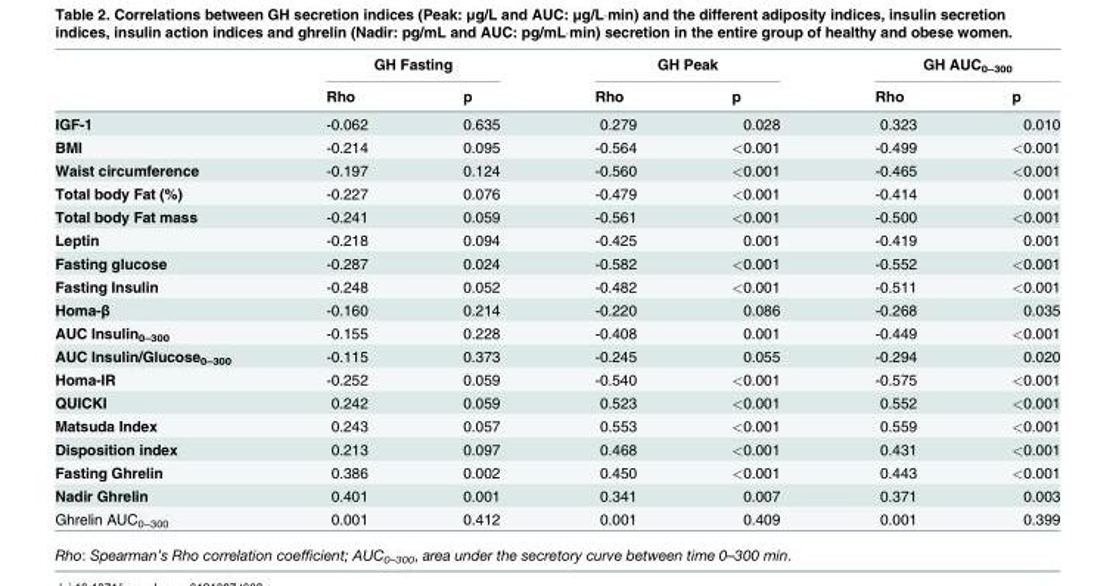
<table><thead><tr><td rowspan="2"></td><td colspan="2">GH Fasting</td><td colspan="2">GH Peak</td><td colspan="2">GH AUC<sub>0–300</sub></td></tr><tr><td>Rho</td><td>p</td><td>Rho</td><td>p</td><td>Rho</td><td>p</td></tr></thead><tbody><tr><td>IGF-1</td><td>-0.062</td><td>0.635</td><td>0.279</td><td>0.028</td><td>0.323</td><td>0.010</td></tr><tr><td>BMI</td><td>-0.214</td><td>0.095</td><td>-0.564</td><td>&lt;0.001</td><td>-0.499</td><td>&lt;0.001</td></tr><tr><td>Waist circumference</td><td>-0.197</td><td>0.124</td><td>-0.560</td><td>&lt;0.001</td><td>-0.465</td><td>&lt;0.001</td></tr><tr><td>Total body Fat (%)</td><td>-0.227</td><td>0.076</td><td>-0.479</td><td>&lt;0.001</td><td>-0.414</td><td>0.001</td></tr><tr><td>Total body Fat mass</td><td>-0.241</td><td>0.059</td><td>-0.561</td><td>&lt;0.001</td><td>-0.500</td><td>&lt;0.001</td></tr><tr><td>Leptin</td><td>-0.218</td><td>0.094</td><td>-0.425</td><td>0.001</td><td>-0.419</td><td>0.001</td></tr><tr><td>Fasting glucose</td><td>-0.287</td><td>0.024</td><td>-0.582</td><td>&lt;0.001</td><td>-0.552</td><td>&lt;0.001</td></tr><tr><td>Fasting Insulin</td><td>-0.248</td><td>0.052</td><td>-0.482</td><td>&lt;0.001</td><td>-0.511</td><td>&lt;0.001</td></tr><tr><td>Homa-β</td><td>-0.160</td><td>0.214</td><td>-0.220</td><td>0.086</td><td>-0.268</td><td>0.035</td></tr><tr><td>AUC Insulin<sub>0–300</sub></td><td>-0.155</td><td>0.228</td><td>-0.408</td><td>0.001</td><td>-0.449</td><td>&lt;0.001</td></tr><tr><td>AUC Insulin/Glucose<sub>0–300</sub></td><td>-0.115</td><td>0.373</td><td>-0.245</td><td>0.055</td><td>-0.294</td><td>0.020</td></tr><tr><td>Homa-IR</td><td>-0.252</td><td>0.059</td><td>-0.540</td><td>&lt;0.001</td><td>-0.575</td><td>&lt;0.001</td></tr><tr><td>QUICKI</td><td>0.242</td><td>0.059</td><td>0.523</td><td>&lt;0.001</td><td>0.552</td><td>&lt;0.001</td></tr><tr><td>Matsuda Index</td><td>0.243</td><td>0.057</td><td>0.553</td><td>&lt;0.001</td><td>0.559</td><td>&lt;0.001</td></tr><tr><td>Disposition index</td><td>0.213</td><td>0.097</td><td>0.468</td><td>&lt;0.001</td><td>0.431</td><td>&lt;0.001</td></tr><tr><td>Fasting Ghrelin</td><td>0.386</td><td>0.002</td><td>0.450</td><td>&lt;0.001</td><td>0.443</td><td>&lt;0.001</td></tr><tr><td>Nadir Ghrelin</td><td>0.401</td><td>0.001</td><td>0.341</td><td>0.007</td><td>0.371</td><td>0.003</td></tr><tr><td>Ghrelin AUC<sub>0–300</sub></td><td>0.001</td><td>0.412</td><td>0.001</td><td>0.409</td><td>0.001</td><td>0.399</td></tr></tbody></table>